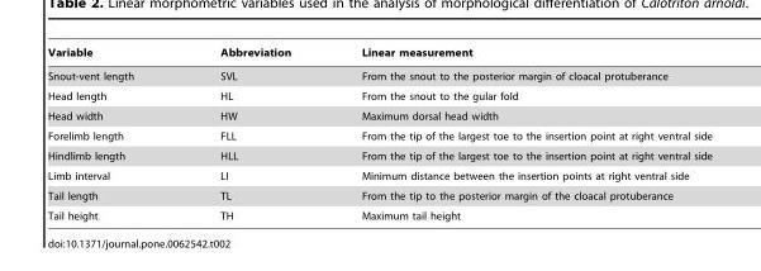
<table><thead><tr><td>Variable</td><td>Abbreviation</td><td>Linear measurement</td></tr></thead><tbody><tr><td>Snout-vent length</td><td>SVL</td><td>From the snout to the posterior margin of cloacal protuberance</td></tr><tr><td>Head length</td><td>HL</td><td>From the snout to the gular fold</td></tr><tr><td>Head width</td><td>HW</td><td>Maximum dorsal head width</td></tr><tr><td>Forelimb length</td><td>FLL</td><td>From the tip of the largest toe to the insertion point at right ventral side</td></tr><tr><td>Hindlimb length</td><td>HLL</td><td>From the tip of the largest toe to the insertion point at right ventral side</td></tr><tr><td>Limb interval</td><td>LI</td><td>Minimum distance between the insertion points at right ventral side</td></tr><tr><td>Tail length</td><td>TL</td><td>From the tip to the posterior margin of the cloacal protuberance</td></tr><tr><td>Tail height</td><td>TH</td><td>Maximum tail height</td></tr></tbody></table>